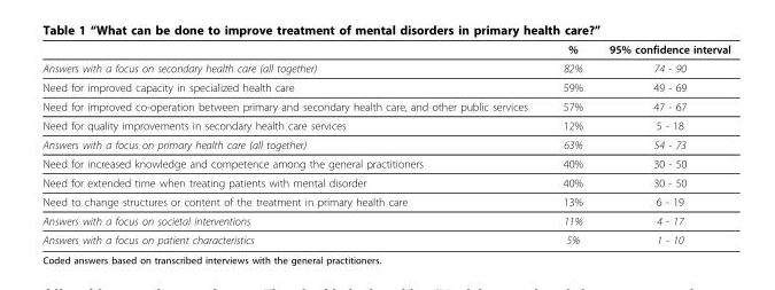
<table><thead><tr><td></td><td>%</td><td>95% confidence interval</td></tr></thead><tbody><tr><td>Answers with a focus on secondary health care (all together)</td><td>82%</td><td>74 - 90</td></tr><tr><td>Need for improved capacity in specialized health care</td><td>59%</td><td>49 - 69</td></tr><tr><td>Need for improved co-operation between primary and secondary health care, and other public services</td><td>57%</td><td>47 - 67</td></tr><tr><td>Need for quality improvements in secondary health care services</td><td>12%</td><td>5 - 18</td></tr><tr><td>Answers with a focus on primary health care (all together)</td><td>63%</td><td>54 - 73</td></tr><tr><td>Need for increased knowledge and competence among the general practitioners</td><td>40%</td><td>30 - 50</td></tr><tr><td>Need for extended time when treating patients with mental disorder</td><td>40%</td><td>30 - 50</td></tr><tr><td>Need to change structures or content of the treatment in primary health care</td><td>13%</td><td>6 - 19</td></tr><tr><td>Answers with a focus on societal interventions</td><td>11%</td><td>4 - 17</td></tr><tr><td>Answers with a focus on patient characteristics</td><td>5%</td><td>1 - 10</td></tr></tbody></table>